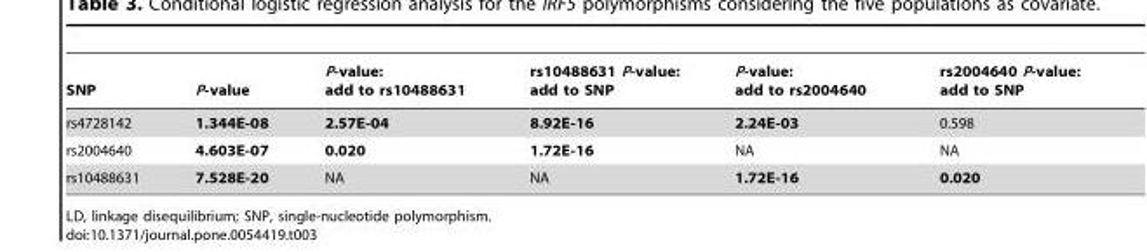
<table><thead><tr><td>SNP</td><td>P-value</td><td>P-value: add to rs10488631</td><td>rs10488631 P-value: add to SNP</td><td>P-value: add to rs2004640</td><td>rs2004640 P-value: add to SNP</td></tr></thead><tbody><tr><td>rs4728142</td><td>1.344E-08</td><td>2.57E-04</td><td>8.92E-16</td><td>2.24E-03</td><td>0.598</td></tr><tr><td>rs2004640</td><td>4.603E-07</td><td>0.020</td><td>1.72E-16</td><td>NA</td><td>NA</td></tr><tr><td>rs10488631</td><td>7.528E-20</td><td>NA</td><td>NA</td><td>1.72E-16</td><td>0.020</td></tr></tbody></table>